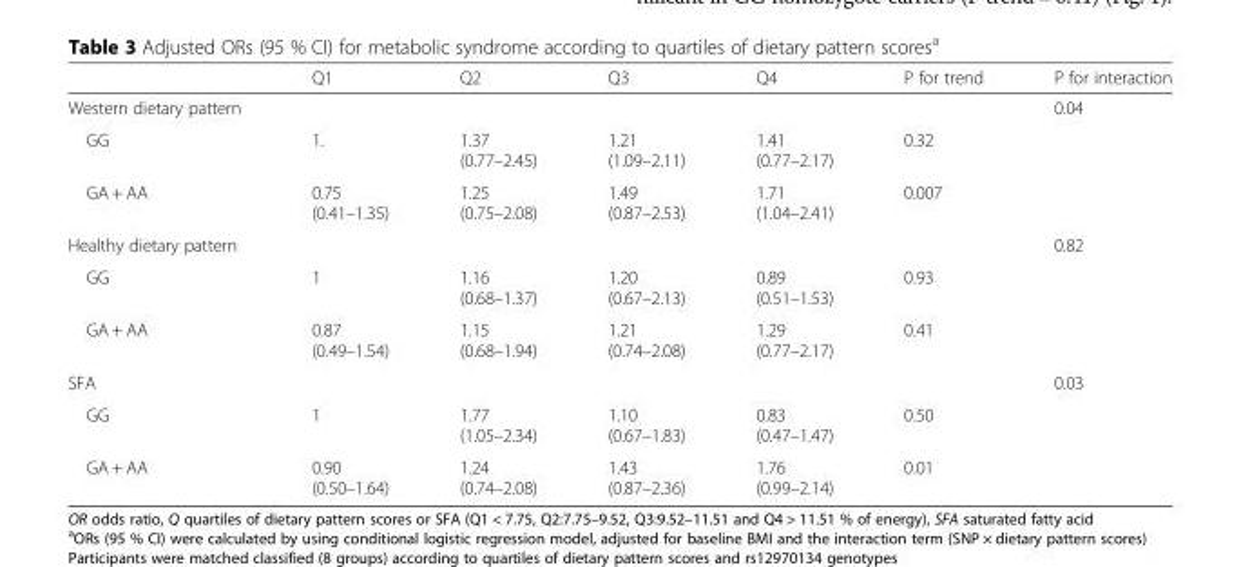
<table><thead><tr><td></td><td>Q1</td><td>Q2</td><td>Q3</td><td>Q4</td><td>P for trend</td><td>P for interaction</td></tr></thead><tbody><tr><td>Western dietary pattern</td><td></td><td></td><td></td><td></td><td></td><td>0.04</td></tr><tr><td>GG</td><td>1.</td><td>1.37 (0.77–2.45)</td><td>1.21 (1.09–2.11)</td><td>1.41 (0.77–2.17)</td><td>0.32</td><td></td></tr><tr><td>GA + AA</td><td>0.75 (0.41–1.35)</td><td>1.25 (0.75–2.08)</td><td>1.49 (0.87–2.53)</td><td>1.71 (1.04–2.41)</td><td>0.007</td><td></td></tr><tr><td>Healthy dietary pattern</td><td></td><td></td><td></td><td></td><td></td><td>0.82</td></tr><tr><td>GG</td><td>1</td><td>1.16 (0.68–1.37)</td><td>1.20 (0.67–2.13)</td><td>0.89 (0.51–1.53)</td><td>0.93</td><td></td></tr><tr><td>GA + AA</td><td>0.87 (0.49–1.54)</td><td>1.15 (0.68–1.94)</td><td>1.21 (0.74–2.08)</td><td>1.29 (0.77–2.17)</td><td>0.41</td><td></td></tr><tr><td>SFA</td><td></td><td></td><td></td><td></td><td></td><td>0.03</td></tr><tr><td>GG</td><td>1</td><td>1.77 (1.05–2.34)</td><td>1.10 (0.67–1.83)</td><td>0.83 (0.47–1.47)</td><td>0.50</td><td></td></tr><tr><td>GA + AA</td><td>0.90 (0.50–1.64)</td><td>1.24 (0.74–2.08)</td><td>1.43 (0.87–2.36)</td><td>1.76 (0.99–2.14)</td><td>0.01</td><td></td></tr></tbody></table>